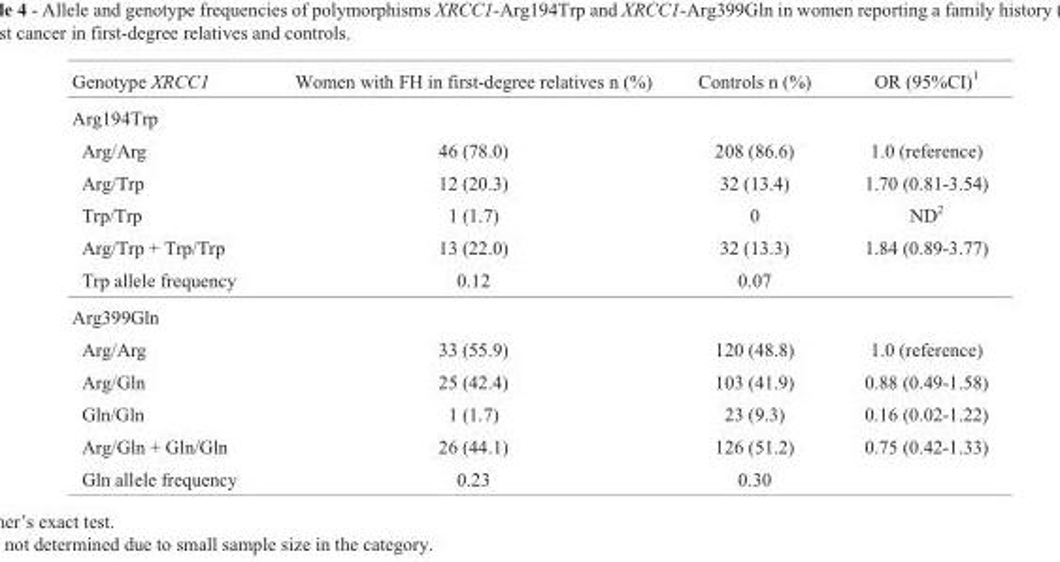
<table><thead><tr><td>Genotype XRCC1</td><td>Women with FH in first-degree relatives n (%)</td><td>Controls n (%)</td><td>OR (95%CI)<sup>1</sup></td></tr></thead><tbody><tr><td colspan="4">Arg194Trp</td></tr><tr><td>Arg/Arg</td><td>46 (78.0)</td><td>208 (86.6)</td><td>1.0 (reference)</td></tr><tr><td>Arg/Trp</td><td>12 (20.3)</td><td>32 (13.4)</td><td>1.70 (0.81-3.54)</td></tr><tr><td>Trp/Trp</td><td>1 (1.7)</td><td>0</td><td>ND<sup>2</sup></td></tr><tr><td>Arg/Trp + Trp/Trp</td><td>13 (22.0)</td><td>32 (13.3)</td><td>1.84 (0.89-3.77)</td></tr><tr><td>Trp allele frequency</td><td>0.12</td><td>0.07</td><td></td></tr><tr><td colspan="4">Arg399Gln</td></tr><tr><td>Arg/Arg</td><td>33 (55.9)</td><td>120 (48.8)</td><td>1.0 (reference)</td></tr><tr><td>Arg/Gln</td><td>25 (42.4)</td><td>103 (41.9)</td><td>0.88 (0.49-1.58)</td></tr><tr><td>Gln/Gln</td><td>1 (1.7)</td><td>23 (9.3)</td><td>0.16 (0.02-1.22)</td></tr><tr><td>Arg/Gln + Gln/Gln</td><td>26 (44.1)</td><td>126 (51.2)</td><td>0.75 (0.42-1.33)</td></tr><tr><td>Gln allele frequency</td><td>0.23</td><td>0.30</td><td></td></tr></tbody></table>